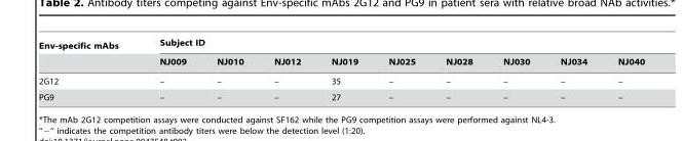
<table><thead><tr><td rowspan="2">Env-specific mAbs</td><td colspan="9">Subject ID</td></tr><tr><td>NJ009</td><td>NJ010</td><td>NJ012</td><td>NJ019</td><td>NJ025</td><td>NJ028</td><td>NJ030</td><td>NJ034</td><td>NJ040</td></tr></thead><tbody><tr><td>2G12</td><td>–</td><td>–</td><td>–</td><td>35</td><td>–</td><td>–</td><td>–</td><td>–</td><td>–</td></tr><tr><td>PG9</td><td>–</td><td>–</td><td>–</td><td>27</td><td>–</td><td>–</td><td>–</td><td>–</td><td>–</td></tr></tbody></table>